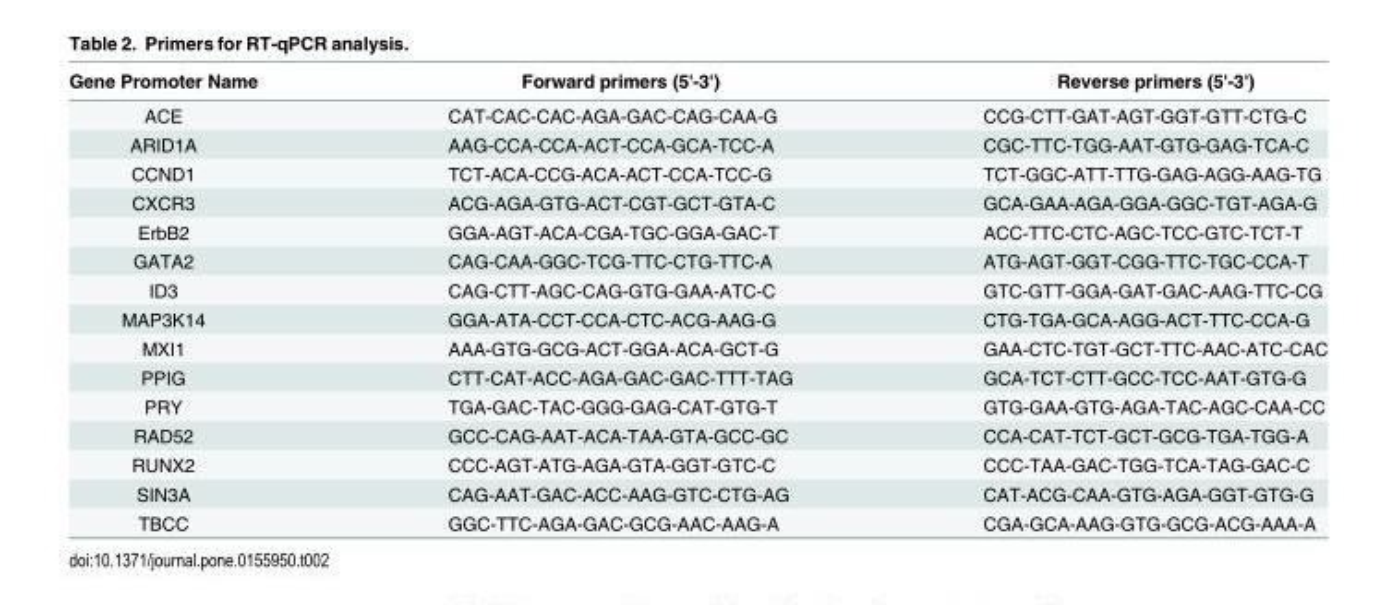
<table><thead><tr><td>Gene Promoter Name</td><td>Forward primers (5&#x27;-3&#x27;)</td><td>Reverse primers (5&#x27;-3&#x27;)</td></tr></thead><tbody><tr><td>ACE</td><td>CAT-CAC-CAC-AGA-GAC-CAG-CAA-G</td><td>CCG-CTT-GAT-AGT-GGT-GTT-CTG-C</td></tr><tr><td>ARID1A</td><td>AAG-CCA-CCA-ACT-CCA-GCA-TCC-A</td><td>CGC-TTC-TGG-AAT-GTG-GAG-TCA-C</td></tr><tr><td>CCND1</td><td>TCT-ACA-CCG-ACA-ACT-CCA-TCC-G</td><td>TCT-GGC-ATT-TTG-GAG-AGG-AAG-TG</td></tr><tr><td>CXCR3</td><td>ACG-AGA-GTG-ACT-CGT-GCT-GTA-C</td><td>GCA-GAA-AGA-GGA-GGC-TGT-AGA-G</td></tr><tr><td>ErbB2</td><td>GGA-AGT-ACA-CGA-TGC-GGA-GAC-T</td><td>ACC-TTC-CTC-AGC-TCC-GTC-TCT-T</td></tr><tr><td>GATA2</td><td>CAG-CAA-GGC-TCG-TTC-CTG-TTC-A</td><td>ATG-AGT-GGT-CGG-TTC-TGC-CCA-T</td></tr><tr><td>ID3</td><td>CAG-CTT-AGC-CAG-GTG-GAA-ATC-C</td><td>GTC-GTT-GGA-GAT-GAC-AAG-TTC-CG</td></tr><tr><td>MAP3K14</td><td>GGA-ATA-CCT-CCA-CTC-ACG-AAG-G</td><td>CTG-TGA-GCA-AGG-ACT-TTC-CCA-G</td></tr><tr><td>MXI1</td><td>AAA-GTG-GCG-ACT-GGA-ACA-GCT-G</td><td>GAA-CTC-TGT-GCT-TTC-AAC-ATC-CAC</td></tr><tr><td>PPIG</td><td>CTT-CAT-ACC-AGA-GAC-GAC-TTT-TAG</td><td>GCA-TCT-CTT-GCC-TCC-AAT-GTG-G</td></tr><tr><td>PRY</td><td>TGA-GAC-TAC-GGG-GAG-CAT-GTG-T</td><td>GTG-GAA-GTG-AGA-TAC-AGC-CAA-CC</td></tr><tr><td>RAD52</td><td>GCC-CAG-AAT-ACA-TAA-GTA-GCC-GC</td><td>CCA-CAT-TCT-GCT-GCG-TGA-TGG-A</td></tr><tr><td>RUNX2</td><td>CCC-AGT-ATG-AGA-GTA-GGT-GTC-C</td><td>CCC-TAA-GAC-TGG-TCA-TAG-GAC-C</td></tr><tr><td>SIN3A</td><td>CAG-AAT-GAC-ACC-AAG-GTC-CTG-AG</td><td>CAT-ACG-CAA-GTG-AGA-GGT-GTG-G</td></tr><tr><td>TBCC</td><td>GGC-TTC-AGA-GAC-GCG-AAC-AAG-A</td><td>CGA-GCA-AAG-GTG-GCG-ACG-AAA-A</td></tr></tbody></table>